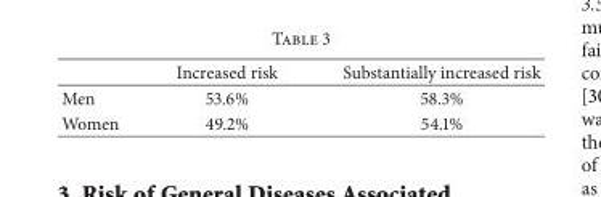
<table><thead><tr><td></td><td>Increased risk</td><td>Substantially increased risk</td></tr></thead><tbody><tr><td>Men</td><td>53.6%</td><td>58.3%</td></tr><tr><td>Women</td><td>49.2%</td><td>54.1%</td></tr></tbody></table>